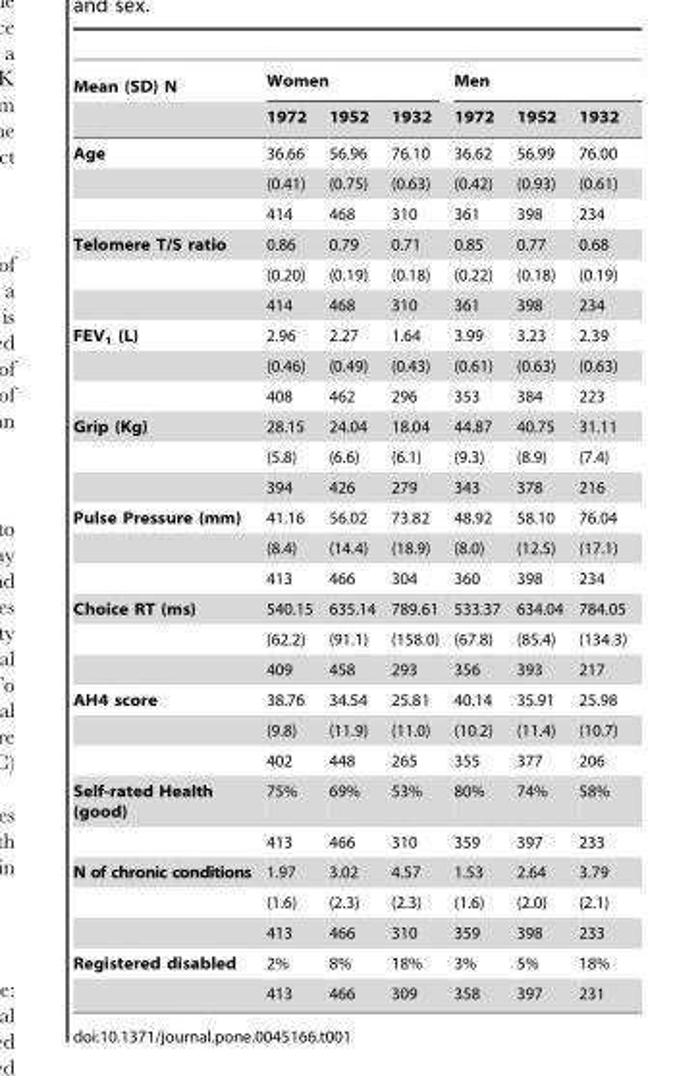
<table><thead><tr><td rowspan="2">Mean (SD) N</td><td colspan="3">Women</td><td colspan="3">Men</td></tr><tr><td>1972</td><td>1952</td><td>1932</td><td>1972</td><td>1952</td><td>1932</td></tr></thead><tbody><tr><td rowspan="3">Age</td><td>36.66</td><td>56.96</td><td>76.10</td><td>36.62</td><td>56.99</td><td>76.00</td></tr><tr><td>(0.41)</td><td>(0.75)</td><td>(0.63)</td><td>(0.42)</td><td>(0.93)</td><td>(0.61)</td></tr><tr><td>414</td><td>468</td><td>310</td><td>361</td><td>398</td><td>234</td></tr><tr><td rowspan="3">Telomere T/S ratio</td><td>0.86</td><td>0.79</td><td>0.71</td><td>0.85</td><td>0.77</td><td>0.68</td></tr><tr><td>(0.20)</td><td>(0.19)</td><td>(0.18)</td><td>(0.22)</td><td>(0.18)</td><td>(0.19)</td></tr><tr><td>414</td><td>468</td><td>310</td><td>361</td><td>398</td><td>234</td></tr><tr><td rowspan="3">FEV<sub>1</sub> (L)</td><td>2.96</td><td>2.27</td><td>1.64</td><td>3.99</td><td>3.23</td><td>2.39</td></tr><tr><td>(0.46)</td><td>(0.49)</td><td>(0.43)</td><td>(0.61)</td><td>(0.63)</td><td>(0.63)</td></tr><tr><td>408</td><td>462</td><td>296</td><td>353</td><td>384</td><td>223</td></tr><tr><td rowspan="3">Grip (Kg)</td><td>28.15</td><td>24.04</td><td>18.04</td><td>44.87</td><td>40.75</td><td>31.11</td></tr><tr><td>(5.8)</td><td>(6.6)</td><td>(6.1)</td><td>(9.3)</td><td>(8.9)</td><td>(7.4)</td></tr><tr><td>394</td><td>426</td><td>279</td><td>343</td><td>378</td><td>216</td></tr><tr><td rowspan="3">Pulse Pressure (mm)</td><td>41.16</td><td>56.02</td><td>73.82</td><td>48.92</td><td>58.10</td><td>76.04</td></tr><tr><td>(8.4)</td><td>(14.4)</td><td>(18.9)</td><td>(8.0)</td><td>(12.5)</td><td>(17.1)</td></tr><tr><td>413</td><td>466</td><td>304</td><td>360</td><td>398</td><td>234</td></tr><tr><td rowspan="3">Choice RT (ms)</td><td>540.15</td><td>635.14</td><td>789.61</td><td>533.37</td><td>634.04</td><td>784.05</td></tr><tr><td>(62.2)</td><td>(91.1)</td><td>(158.0)</td><td>(67.8)</td><td>(85.4)</td><td>(134.3)</td></tr><tr><td>409</td><td>458</td><td>293</td><td>356</td><td>393</td><td>217</td></tr><tr><td rowspan="3">AH4 score</td><td>38.76</td><td>34.54</td><td>25.81</td><td>40.14</td><td>35.91</td><td>25.98</td></tr><tr><td>(9.8)</td><td>(11.9)</td><td>(11.0)</td><td>(10.2)</td><td>(11.4)</td><td>(10.7)</td></tr><tr><td>402</td><td>448</td><td>265</td><td>355</td><td>377</td><td>206</td></tr><tr><td rowspan="2">Self-rated Health (good)</td><td>75%</td><td>69%</td><td>53%</td><td>80%</td><td>74%</td><td>58%</td></tr><tr><td>413</td><td>466</td><td>310</td><td>359</td><td>397</td><td>233</td></tr><tr><td rowspan="3">N of chronic conditions</td><td>1.97</td><td>3.02</td><td>4.57</td><td>1.53</td><td>2.64</td><td>3.79</td></tr><tr><td>(1.6)</td><td>(2.3)</td><td>(2.3)</td><td>(1.6)</td><td>(2.0)</td><td>(2.1)</td></tr><tr><td>413</td><td>466</td><td>310</td><td>359</td><td>398</td><td>233</td></tr><tr><td rowspan="2">Registered disabled</td><td>2%</td><td>8%</td><td>18%</td><td>3%</td><td>5%</td><td>18%</td></tr><tr><td>413</td><td>466</td><td>309</td><td>358</td><td>397</td><td>231</td></tr></tbody></table>